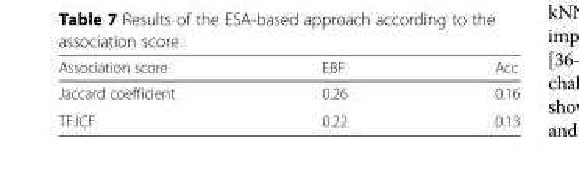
<table><thead><tr><td>Association score</td><td>EBF</td><td>Acc</td></tr></thead><tbody><tr><td>Jaccard coefficient</td><td>0.26</td><td>0.16</td></tr><tr><td>TF.ICF</td><td>0.22</td><td>0.13</td></tr></tbody></table>